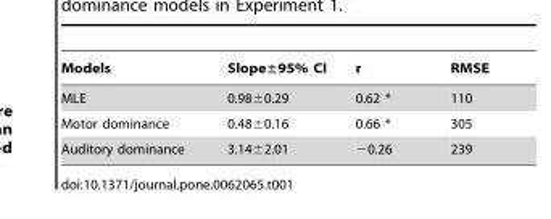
<table><thead><tr><td>Models</td><td>Slope±95% CI</td><td>r</td><td>RMSE</td></tr></thead><tbody><tr><td>MLE</td><td>0.98±0.29</td><td>0.62 *</td><td>110</td></tr><tr><td>Motor dominance</td><td>0.48±0.16</td><td>0.66 *</td><td>305</td></tr><tr><td>Auditory dominance</td><td>3.14±2.01</td><td>−0.26</td><td>239</td></tr></tbody></table>